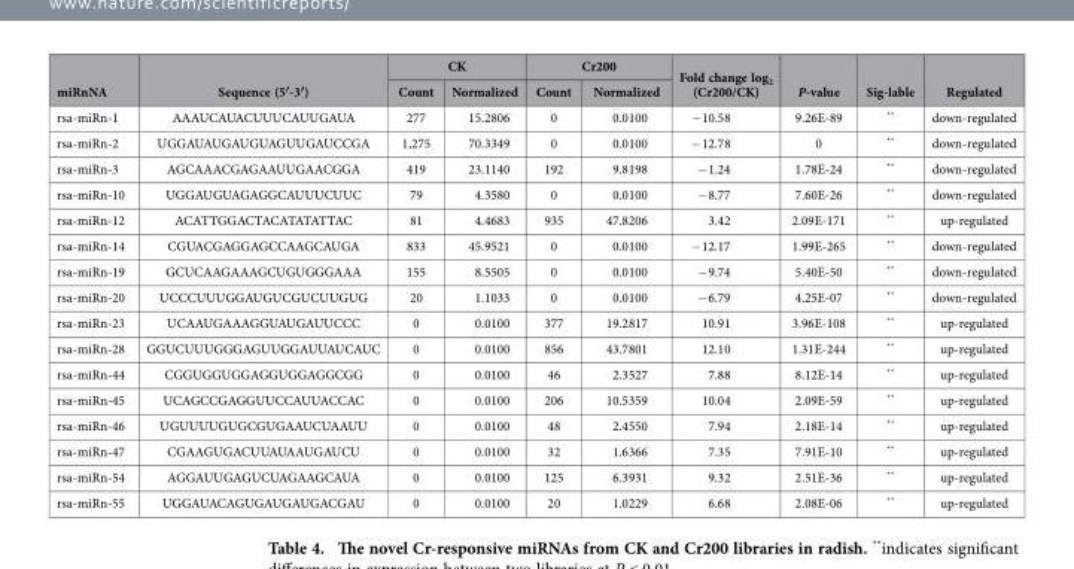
<table><thead><tr><td rowspan="2">miRnNA</td><td rowspan="2">Sequence (5′-3′)</td><td colspan="2">CK</td><td colspan="2">Cr200</td><td rowspan="2">Fold change log<sub>2</sub> (Cr200/CK)</td><td rowspan="2">P-value</td><td rowspan="2">Sig-lable</td><td rowspan="2">Regulated</td></tr><tr><td>Count</td><td>Normalized</td><td>Count</td><td>Normalized</td></tr></thead><tbody><tr><td>rsa-miRn-1</td><td>AAAUCAUACUUUCAUUGAUA</td><td>277</td><td>15.2806</td><td>0</td><td>0.0100</td><td>− 10.58</td><td>9.26E-89</td><td>**</td><td>down-regulated</td></tr><tr><td>rsa-miRn-2</td><td>UGGAUAUGAUGUAGUUGAUCCGA</td><td>1,275</td><td>70.3349</td><td>0</td><td>0.0100</td><td>− 12.78</td><td>0</td><td>**</td><td>down-regulated</td></tr><tr><td>rsa-miRn-3</td><td>AGCAAACGAGAAUUGAACGGA</td><td>419</td><td>23.1140</td><td>192</td><td>9.8198</td><td>− 1.24</td><td>1.78E-24</td><td>**</td><td>down-regulated</td></tr><tr><td>rsa-miRn-10</td><td>UGGAUGUAGAGGCAUUUCUUC</td><td>79</td><td>4.3580</td><td>0</td><td>0.0100</td><td>− 8.77</td><td>7.60E-26</td><td>**</td><td>down-regulated</td></tr><tr><td>rsa-miRn-12</td><td>ACATTGGACTACATATATTAC</td><td>81</td><td>4.4683</td><td>935</td><td>47.8206</td><td>3.42</td><td>2.09E-171</td><td>**</td><td>up-regulated</td></tr><tr><td>rsa-miRn-14</td><td>CGUACGAGGAGCCAAGCAUGA</td><td>833</td><td>45.9521</td><td>0</td><td>0.0100</td><td>− 12.17</td><td>1.99E-265</td><td>**</td><td>down-regulated</td></tr><tr><td>rsa-miRn-19</td><td>GCUCAAGAAAGCUGUGGGAAA</td><td>155</td><td>8.5505</td><td>0</td><td>0.0100</td><td>− 9.74</td><td>5.40E-50</td><td>**</td><td>down-regulated</td></tr><tr><td>rsa-miRn-20</td><td>UCCCUUUGGAUGUCGUCUUGUG</td><td>20</td><td>1.1033</td><td>0</td><td>0.0100</td><td>− 6.79</td><td>4.25E-07</td><td>**</td><td>down-regulated</td></tr><tr><td>rsa-miRn-23</td><td>UCAAUGAAAGGUAUGAUUCCC</td><td>0</td><td>0.0100</td><td>377</td><td>19.2817</td><td>10.91</td><td>3.96E-108</td><td>**</td><td>up-regulated</td></tr><tr><td>rsa-miRn-28</td><td>GGUCUUUGGGAGUUGGAUUAUCAUC</td><td>0</td><td>0.0100</td><td>856</td><td>43.7801</td><td>12.10</td><td>1.31E-244</td><td>**</td><td>up-regulated</td></tr><tr><td>rsa-miRn-44</td><td>CGGUGGUGGAGGUGGAGGCGG</td><td>0</td><td>0.0100</td><td>46</td><td>2.3527</td><td>7.88</td><td>8.12E-14</td><td>**</td><td>up-regulated</td></tr><tr><td>rsa-miRn-45</td><td>UCAGCCGAGGUUCCAUUACCAC</td><td>0</td><td>0.0100</td><td>206</td><td>10.5359</td><td>10.04</td><td>2.09E-59</td><td>**</td><td>up-regulated</td></tr><tr><td>rsa-miRn-46</td><td>UGUUUUGUGCGUGAAUCUAAUU</td><td>0</td><td>0.0100</td><td>48</td><td>2.4550</td><td>7.94</td><td>2.18E-14</td><td>**</td><td>up-regulated</td></tr><tr><td>rsa-miRn-47</td><td>CGAAGUGACUUAUAAUGAUCU</td><td>0</td><td>0.0100</td><td>32</td><td>1.6366</td><td>7.35</td><td>7.91E-10</td><td>**</td><td>up-regulated</td></tr><tr><td>rsa-miRn-54</td><td>AGGAUUGAGUCUAGAAGCAUA</td><td>0</td><td>0.0100</td><td>125</td><td>6.3931</td><td>9.32</td><td>2.51E-36</td><td>**</td><td>up-regulated</td></tr><tr><td>rsa-miRn-55</td><td>UGGAUACAGUGAUGAUGACGAU</td><td>0</td><td>0.0100</td><td>20</td><td>1.0229</td><td>6.68</td><td>2.08E-06</td><td>**</td><td>up-regulated</td></tr></tbody></table>